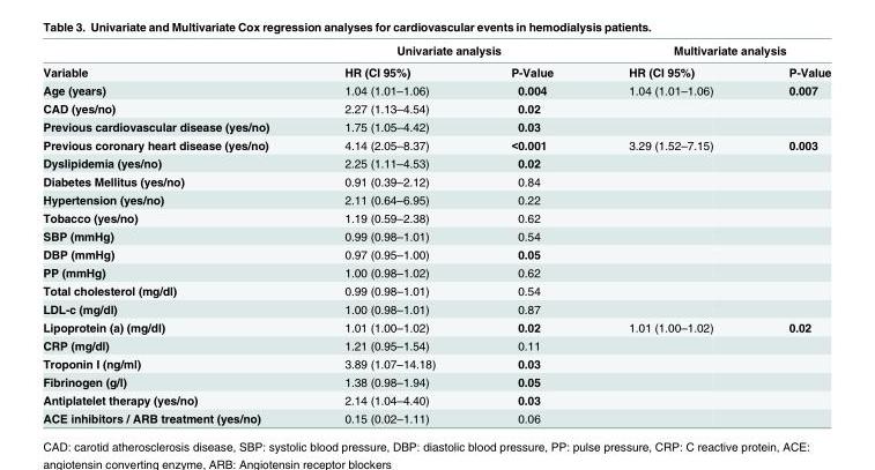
<table><thead><tr><td rowspan="2">Variable</td><td colspan="2">Univariate analysis</td><td colspan="2">Multivariate analysis</td></tr><tr><td>HR (CI 95%)</td><td>P-Value</td><td>HR (CI 95%)</td><td>P-Value</td></tr></thead><tbody><tr><td>Age (years)</td><td>1.04 (1.01–1.06)</td><td>0.004</td><td>1.04 (1.01–1.06)</td><td>0.007</td></tr><tr><td>CAD (yes/no)</td><td>2.27 (1.13–4.54)</td><td>0.02</td><td></td><td></td></tr><tr><td>Previous cardiovascular disease (yes/no)</td><td>1.75 (1.05–4.42)</td><td>0.03</td><td></td><td></td></tr><tr><td>Previous coronary heart disease (yes/no)</td><td>4.14 (2.05–8.37)</td><td>&lt;0.001</td><td>3.29 (1.52–7.15)</td><td>0.003</td></tr><tr><td>Dyslipidemia (yes/no)</td><td>2.25 (1.11–4.53)</td><td>0.02</td><td></td><td></td></tr><tr><td>Diabetes Mellitus (yes/no)</td><td>0.91 (0.39–2.12)</td><td>0.84</td><td></td><td></td></tr><tr><td>Hypertension (yes/no)</td><td>2.11 (0.64–6.95)</td><td>0.22</td><td></td><td></td></tr><tr><td>Tobacco (yes/no)</td><td>1.19 (0.59–2.38)</td><td>0.62</td><td></td><td></td></tr><tr><td>SBP (mmHg)</td><td>0.99 (0.98–1.01)</td><td>0.54</td><td></td><td></td></tr><tr><td>DBP (mmHg)</td><td>0.97 (0.95–1.00)</td><td>0.05</td><td></td><td></td></tr><tr><td>PP (mmHg)</td><td>1.00 (0.98–1.02)</td><td>0.62</td><td></td><td></td></tr><tr><td>Total cholesterol (mg/dl)</td><td>0.99 (0.98–1.01)</td><td>0.54</td><td></td><td></td></tr><tr><td>LDL-c (mg/dl)</td><td>1.00 (0.98–1.01)</td><td>0.87</td><td></td><td></td></tr><tr><td>Lipoprotein (a) (mg/dl)</td><td>1.01 (1.00–1.02)</td><td>0.02</td><td>1.01 (1.00–1.02)</td><td>0.02</td></tr><tr><td>CRP (mg/dl)</td><td>1.21 (0.95–1.54)</td><td>0.11</td><td></td><td></td></tr><tr><td>Troponin I (ng/ml)</td><td>3.89 (1.07–14.18)</td><td>0.03</td><td></td><td></td></tr><tr><td>Fibrinogen (g/l)</td><td>1.38 (0.98–1.94)</td><td>0.05</td><td></td><td></td></tr><tr><td>Antiplatelet therapy (yes/no)</td><td>2.14 (1.04–4.40)</td><td>0.03</td><td></td><td></td></tr><tr><td>ACE inhibitors / ARB treatment (yes/no)</td><td>0.15 (0.02–1.11)</td><td>0.06</td><td></td><td></td></tr></tbody></table>